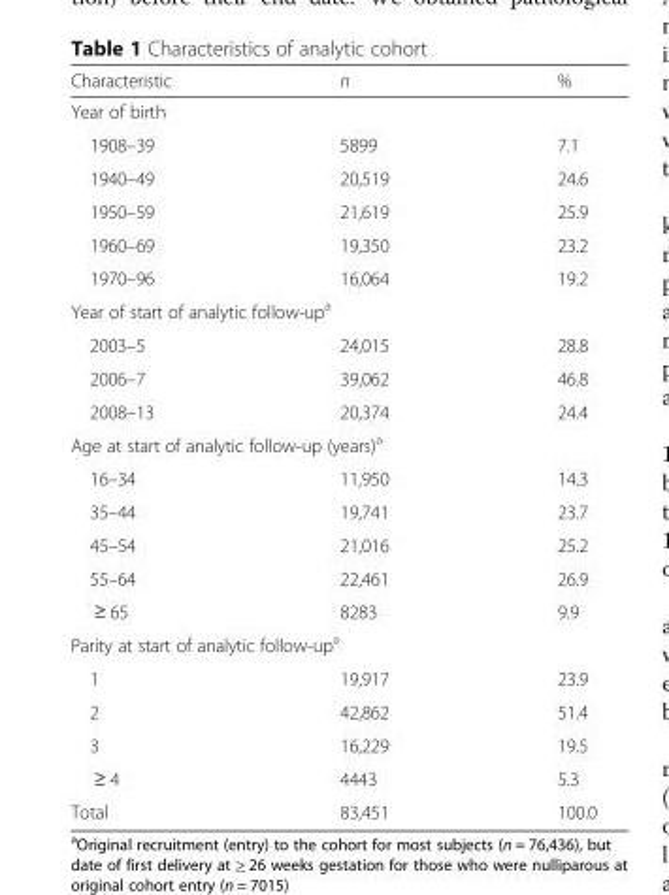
<table><thead><tr><td>Characteristic</td><td>n</td><td>%</td></tr></thead><tbody><tr><td colspan="3">Year of birth</td></tr><tr><td>1908–39</td><td>5899</td><td>7.1</td></tr><tr><td>1940–49</td><td>20,519</td><td>24.6</td></tr><tr><td>1950–59</td><td>21,619</td><td>25.9</td></tr><tr><td>1960–69</td><td>19,350</td><td>23.2</td></tr><tr><td>1970–96</td><td>16,064</td><td>19.2</td></tr><tr><td colspan="3">Year of start of analytic follow-up<sup>a</sup></td></tr><tr><td>2003–5</td><td>24,015</td><td>28.8</td></tr><tr><td>2006–7</td><td>39,062</td><td>46.8</td></tr><tr><td>2008–13</td><td>20,374</td><td>24.4</td></tr><tr><td colspan="3">Age at start of analytic follow-up (years)<sup>a</sup></td></tr><tr><td>16–34</td><td>11,950</td><td>14.3</td></tr><tr><td>35–44</td><td>19,741</td><td>23.7</td></tr><tr><td>45–54</td><td>21,016</td><td>25.2</td></tr><tr><td>55–64</td><td>22,461</td><td>26.9</td></tr><tr><td>≥ 65</td><td>8283</td><td>9.9</td></tr><tr><td colspan="3">Parity at start of analytic follow-up<sup>a</sup></td></tr><tr><td>1</td><td>19,917</td><td>23.9</td></tr><tr><td>2</td><td>42,862</td><td>51.4</td></tr><tr><td>3</td><td>16,229</td><td>19.5</td></tr><tr><td>≥ 4</td><td>4443</td><td>5.3</td></tr><tr><td>Total</td><td>83,451</td><td>100.0</td></tr></tbody></table>